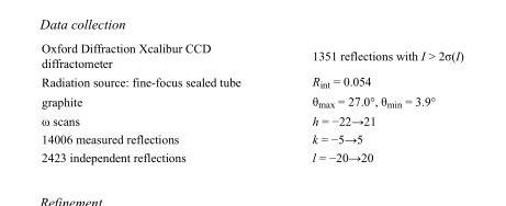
<table><tbody><tr><td>Oxford Diffraction Xcalibur CCD diffractometer</td><td>1351 reflections with I &gt; 2σ(I)</td></tr><tr><td>Radiation source: fine-focus sealed tube</td><td>R<sub>int</sub> = 0.054</td></tr><tr><td>graphite</td><td>θ<sub>max</sub> = 27.0°, θ<sub>min</sub> = 3.9°</td></tr><tr><td>ω scans</td><td>h = −22→21</td></tr><tr><td>14006 measured reflections</td><td>k = −5→5</td></tr><tr><td>2423 independent reflections</td><td>l = −20→20</td></tr></tbody></table>